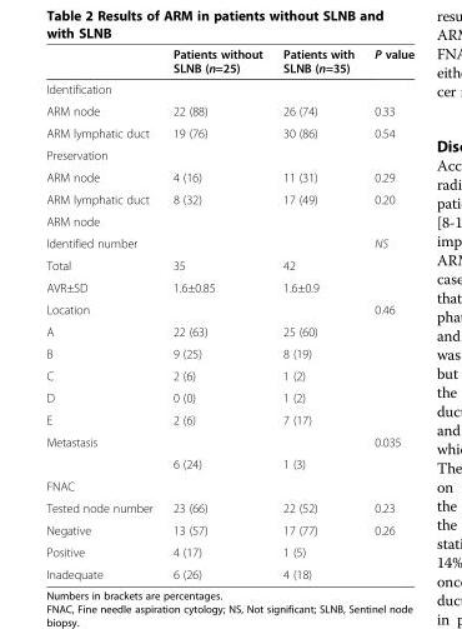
<table><thead><tr><td></td><td>Patients without SLNB (n=25)</td><td>Patients with SLNB (n=35)</td><td>P value</td></tr></thead><tbody><tr><td colspan="4">Identification</td></tr><tr><td>ARM node</td><td>22 (88)</td><td>26 (74)</td><td>0.33</td></tr><tr><td>ARM lymphatic duct</td><td>19 (76)</td><td>30 (86)</td><td>0.54</td></tr><tr><td colspan="4">Preservation</td></tr><tr><td>ARM node</td><td>4 (16)</td><td>11 (31)</td><td>0.29</td></tr><tr><td>ARM lymphatic duct</td><td>8 (32)</td><td>17 (49)</td><td>0.20</td></tr><tr><td colspan="4">ARM node</td></tr><tr><td>Identified number</td><td></td><td></td><td>NS</td></tr><tr><td>Total</td><td>35</td><td>42</td><td></td></tr><tr><td>AVR±SD</td><td>1.6±0.85</td><td>1.6±0.9</td><td></td></tr><tr><td>Location</td><td></td><td></td><td>0.46</td></tr><tr><td>A</td><td>22 (63)</td><td>25 (60)</td><td></td></tr><tr><td>B</td><td>9 (25)</td><td>8 (19)</td><td></td></tr><tr><td>C</td><td>2 (6)</td><td>1 (2)</td><td></td></tr><tr><td>D</td><td>0 (0)</td><td>1 (2)</td><td></td></tr><tr><td>E</td><td>2 (6)</td><td>7 (17)</td><td></td></tr><tr><td rowspan="2">Metastasis</td><td></td><td></td><td>0.035</td></tr><tr><td>6 (24)</td><td>1 (3)</td><td></td></tr><tr><td colspan="4">FNAC</td></tr><tr><td>Tested node number</td><td>23 (66)</td><td>22 (52)</td><td>0.23</td></tr><tr><td>Negative</td><td>13 (57)</td><td>17 (77)</td><td>0.26</td></tr><tr><td>Positive</td><td>4 (17)</td><td>1 (5)</td><td></td></tr><tr><td>Inadequate</td><td>6 (26)</td><td>4 (18)</td><td></td></tr></tbody></table>